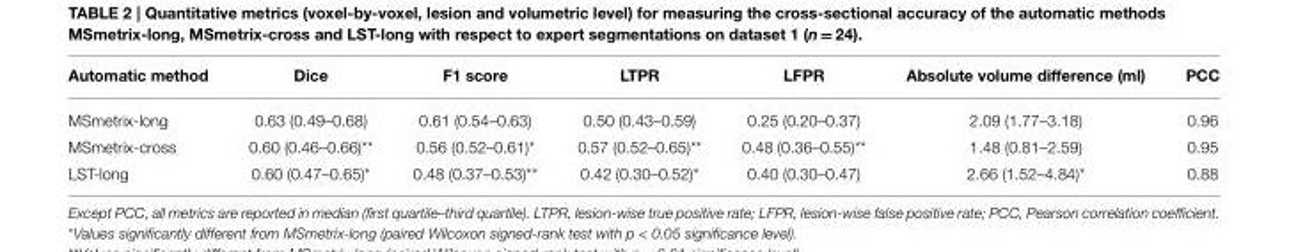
<table><thead><tr><td>Automatic method</td><td>Dice</td><td>F1 score</td><td>LTPR</td><td>LFPR</td><td>Absolute volume difference (ml)</td><td>PCC</td></tr></thead><tbody><tr><td>MSmetrix-long</td><td>0.63 (0.49–0.68)</td><td>0.61 (0.54–0.63)</td><td>0.50 (0.43–0.59)</td><td>0.25 (0.20–0.37)</td><td>2.09 (1.77–3.18)</td><td>0.96</td></tr><tr><td>MSmetrix-cross</td><td>0.60 (0.46–0.66)**</td><td>0.56 (0.52–0.61)*</td><td>0.57 (0.52–0.65)**</td><td>0.48 (0.36–0.55)**</td><td>1.48 (0.81–2.59)</td><td>0.95</td></tr><tr><td>LST-long</td><td>0.60 (0.47–0.65)*</td><td>0.48 (0.37–0.53)**</td><td>0.42 (0.30–0.52)*</td><td>0.40 (0.30–0.47)</td><td>2.66 (1.52–4.84)*</td><td>0.88</td></tr></tbody></table>